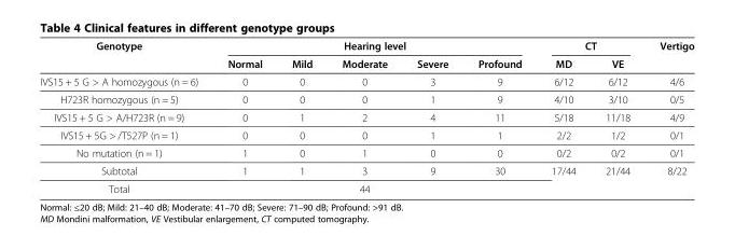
<table><thead><tr><td rowspan="2">Genotype</td><td colspan="5">Hearing level</td><td colspan="2">CT</td><td rowspan="2">Vertigo</td></tr><tr><td>Normal</td><td>Mild</td><td>Moderate</td><td>Severe</td><td>Profound</td><td>MD</td><td>VE</td></tr></thead><tbody><tr><td>IVS15 + 5 G &gt; A homozygous (n = 6)</td><td>0</td><td>0</td><td>0</td><td>3</td><td>9</td><td>6/12</td><td>6/12</td><td>4/6</td></tr><tr><td>H723R homozygous (n = 5)</td><td>0</td><td>0</td><td>0</td><td>1</td><td>9</td><td>4/10</td><td>3/10</td><td>0/5</td></tr><tr><td>IVS15 + 5 G &gt; A/H723R (n = 9)</td><td>0</td><td>1</td><td>2</td><td>4</td><td>11</td><td>5/18</td><td>11/18</td><td>4/9</td></tr><tr><td>IVS15 + 5G &gt; /T527P (n = 1)</td><td>0</td><td>0</td><td>0</td><td>1</td><td>1</td><td>2/2</td><td>1/2</td><td>0/1</td></tr><tr><td>No mutation (n = 1)</td><td>1</td><td>0</td><td>1</td><td>0</td><td>0</td><td>0/2</td><td>0/2</td><td>0/1</td></tr><tr><td>Subtotal</td><td>1</td><td>1</td><td>3</td><td>9</td><td>30</td><td rowspan="2">17/44</td><td rowspan="2">21/44</td><td rowspan="2">8/22</td></tr><tr><td>Total</td><td colspan="2"></td><td>44</td><td></td><td></td></tr></tbody></table>